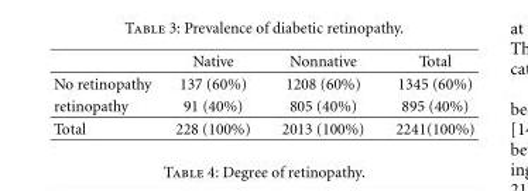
<table><thead><tr><td></td><td>Native</td><td>Nonnative</td><td>Total</td></tr></thead><tbody><tr><td>No retinopathy</td><td>137 (60%)</td><td>1208 (60%)</td><td>1345 (60%)</td></tr><tr><td>retinopathy</td><td>91 (40%)</td><td>805 (40%)</td><td>895 (40%)</td></tr><tr><td>Total</td><td>228 (100%)</td><td>2013 (100%)</td><td>2241(100%)</td></tr></tbody></table>